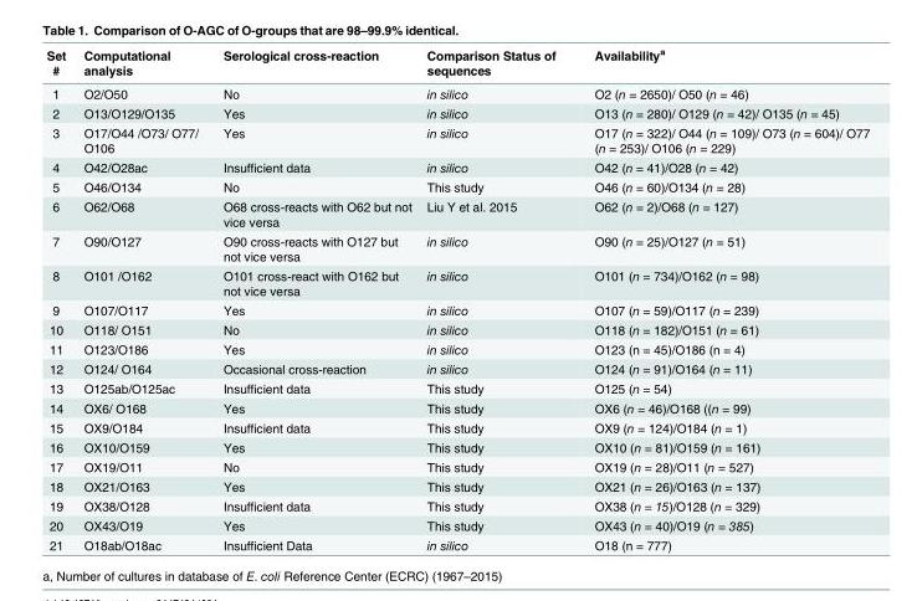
<table><thead><tr><td>Set #</td><td>Computational analysis</td><td>Serological cross-reaction</td><td>Comparison Status of sequences</td><td>Availability<sup>a</sup></td></tr></thead><tbody><tr><td>1</td><td>O2/O50</td><td>No</td><td>in silico</td><td>O2 (n = 2650)/ O50 (n = 46)</td></tr><tr><td>2</td><td>O13/O129/O135</td><td>Yes</td><td>in silico</td><td>O13 (n = 280)/ O129 (n = 42)/ O135 (n = 45)</td></tr><tr><td>3</td><td>O17/O44 /O73/ O77/ O106</td><td>Yes</td><td>in silico</td><td>O17 (n = 322)/ O44 (n = 109)/ O73 (n = 604)/ O77 (n = 253)/ O106 (n = 229)</td></tr><tr><td>4</td><td>O42/O28ac</td><td>Insufficient data</td><td>in silico</td><td>O42 (n = 41)/O28 (n = 42)</td></tr><tr><td>5</td><td>O46/O134</td><td>No</td><td>This study</td><td>O46 (n = 60)/O134 (n = 28)</td></tr><tr><td>6</td><td>O62/O68</td><td>O68 cross-reacts with O62 but not vice versa</td><td>Liu Y et al. 2015</td><td>O62 (n = 2)/O68 (n = 127)</td></tr><tr><td>7</td><td>O90/O127</td><td>O90 cross-reacts with O127 but not vice versa</td><td>in silico</td><td>O90 (n = 25)/O127 (n = 51)</td></tr><tr><td>8</td><td>O101 /O162</td><td>O101 cross-react with O162 but not vice versa</td><td>in silico</td><td>O101 (n = 734)/O162 (n = 98)</td></tr><tr><td>9</td><td>O107/O117</td><td>Yes</td><td>in silico</td><td>O107 (n = 59)/O117 (n = 239)</td></tr><tr><td>10</td><td>O118/ O151</td><td>No</td><td>in silico</td><td>O118 (n = 182)/O151 (n = 61)</td></tr><tr><td>11</td><td>O123/O186</td><td>Yes</td><td>in silico</td><td>O123 (n = 45)/O186 (n = 4)</td></tr><tr><td>12</td><td>O124/ O164</td><td>Occasional cross-reaction</td><td>in silico</td><td>O124 (n = 91)/O164 (n = 11)</td></tr><tr><td>13</td><td>O125ab/O125ac</td><td>Insufficient data</td><td>This study</td><td>O125 (n = 54)</td></tr><tr><td>14</td><td>OX6/ O168</td><td>Yes</td><td>This study</td><td>OX6 (n = 46)/O168 ((n = 99)</td></tr><tr><td>15</td><td>OX9/O184</td><td>Insufficient data</td><td>This study</td><td>OX9 (n = 124)/O184 (n = 1)</td></tr><tr><td>16</td><td>OX10/O159</td><td>Yes</td><td>This study</td><td>OX10 (n = 81)/O159 (n = 161)</td></tr><tr><td>17</td><td>OX19/O11</td><td>No</td><td>This study</td><td>OX19 (n = 28)/O11 (n = 527)</td></tr><tr><td>18</td><td>OX21/O163</td><td>Yes</td><td>This study</td><td>OX21 (n = 26)/O163 (n = 137)</td></tr><tr><td>19</td><td>OX38/O128</td><td>Insufficient data</td><td>This study</td><td>OX38 (n = 15)/O128 (n = 329)</td></tr><tr><td>20</td><td>OX43/O19</td><td>Yes</td><td>This study</td><td>OX43 (n = 40)/O19 (n = 385)</td></tr><tr><td>21</td><td>O18ab/O18ac</td><td>Insufficient Data</td><td>in silico</td><td>O18 (n = 777)</td></tr></tbody></table>